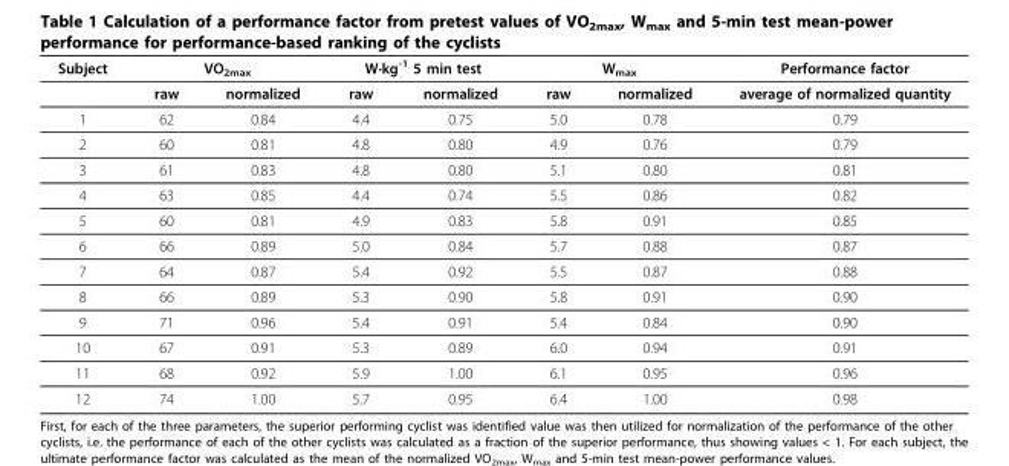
<table><thead><tr><td rowspan="2">Subject</td><td colspan="2">VO<sub>2max</sub></td><td colspan="2">W·kg<sup>-1</sup> 5 min test</td><td colspan="2">W<sub>max</sub></td><td rowspan="2">Performance factor average of normalized quantity</td></tr><tr><td>raw</td><td>normalized</td><td>raw</td><td>normalized</td><td>raw</td><td>normalized</td></tr></thead><tbody><tr><td>1</td><td>62</td><td>0.84</td><td>4.4</td><td>0.75</td><td>5.0</td><td>0.78</td><td>0.79</td></tr><tr><td>2</td><td>60</td><td>0.81</td><td>4.8</td><td>0.80</td><td>4.9</td><td>0.76</td><td>0.79</td></tr><tr><td>3</td><td>61</td><td>0.83</td><td>4.8</td><td>0.80</td><td>5.1</td><td>0.80</td><td>0.81</td></tr><tr><td>4</td><td>63</td><td>0.85</td><td>4.4</td><td>0.74</td><td>5.5</td><td>0.86</td><td>0.82</td></tr><tr><td>5</td><td>60</td><td>0.81</td><td>4.9</td><td>0.83</td><td>5.8</td><td>0.91</td><td>0.85</td></tr><tr><td>6</td><td>66</td><td>0.89</td><td>5.0</td><td>0.84</td><td>5.7</td><td>0.88</td><td>0.87</td></tr><tr><td>7</td><td>64</td><td>0.87</td><td>5.4</td><td>0.92</td><td>5.5</td><td>0.87</td><td>0.88</td></tr><tr><td>8</td><td>66</td><td>0.89</td><td>5.3</td><td>0.90</td><td>5.8</td><td>0.91</td><td>0.90</td></tr><tr><td>9</td><td>71</td><td>0.96</td><td>5.4</td><td>0.91</td><td>5.4</td><td>0.84</td><td>0.90</td></tr><tr><td>10</td><td>67</td><td>0.91</td><td>5.3</td><td>0.89</td><td>6.0</td><td>0.94</td><td>0.91</td></tr><tr><td>11</td><td>68</td><td>0.92</td><td>5.9</td><td>1.00</td><td>6.1</td><td>0.95</td><td>0.96</td></tr><tr><td>12</td><td>74</td><td>1.00</td><td>5.7</td><td>0.95</td><td>6.4</td><td>1.00</td><td>0.98</td></tr></tbody></table>